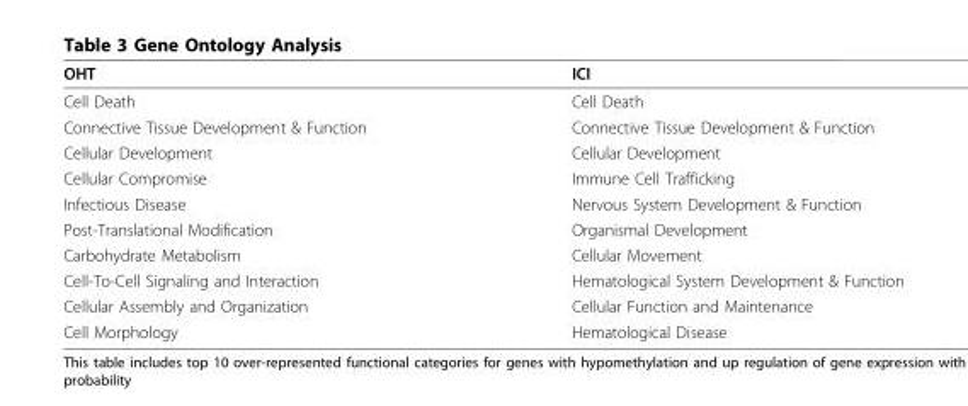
<table><thead><tr><td>OHT</td><td>ICI</td></tr></thead><tbody><tr><td>Cell Death</td><td>Cell Death</td></tr><tr><td>Connective Tissue Development &amp; Function</td><td>Connective Tissue Development &amp; Function</td></tr><tr><td>Cellular Development</td><td>Cellular Development</td></tr><tr><td>Cellular Compromise</td><td>Immune Cell Trafficking</td></tr><tr><td>Infectious Disease</td><td>Nervous System Development &amp; Function</td></tr><tr><td>Post-Translational Modification</td><td>Organismal Development</td></tr><tr><td>Carbohydrate Metabolism</td><td>Cellular Movement</td></tr><tr><td>Cell-To-Cell Signaling and Interaction</td><td>Hematological System Development &amp; Function</td></tr><tr><td>Cellular Assembly and Organization</td><td>Cellular Function and Maintenance</td></tr><tr><td>Cell Morphology</td><td>Hematological Disease</td></tr></tbody></table>